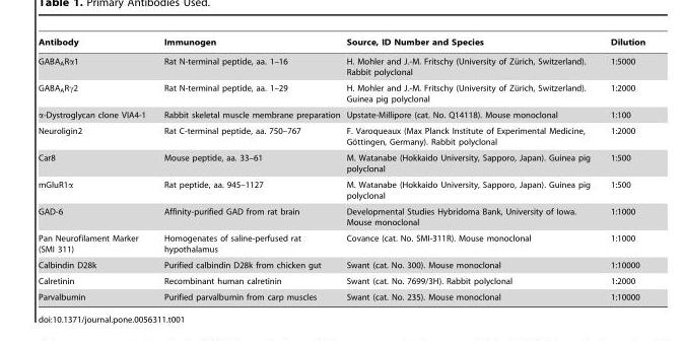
<table><thead><tr><td>Antibody</td><td>Immunogen</td><td>Source, ID Number and Species</td><td>Dilution</td></tr></thead><tbody><tr><td>GABA<sub>A</sub>Rα1</td><td>Rat N-terminal peptide, aa. 1–16</td><td>H. Mohler and J.-M. Fritschy (University of Zu¨rich, Switzerland). Rabbit polyclonal</td><td>1:5000</td></tr><tr><td>GABA<sub>A</sub>Rγ2</td><td>Rat N-terminal peptide, aa. 1–29</td><td>H. Mohler and J.-M. Fritschy (University of Zu¨rich, Switzerland). Guinea pig polyclonal</td><td>1:2000</td></tr><tr><td>α-Dystroglycan clone VIA4-1</td><td>Rabbit skeletal muscle membrane preparation</td><td>Upstate-Millipore (cat. No. Q14118). Mouse monoclonal</td><td>1:100</td></tr><tr><td>Neuroligin2</td><td>Rat C-terminal peptide, aa. 750–767</td><td>F. Varoqueaux (Max Planck Institute of Experimental Medicine, Go¨ttingen, Germany). Rabbit polyclonal</td><td>1:2000</td></tr><tr><td>Car8</td><td>Mouse peptide, aa. 33–61</td><td>M. Watanabe (Hokkaido University, Sapporo, Japan). Guinea pig polyclonal</td><td>1:500</td></tr><tr><td>mGluR1α</td><td>Rat peptide, aa. 945–1127</td><td>M. Watanabe (Hokkaido University, Sapporo, Japan). Guinea pig polyclonal</td><td>1:500</td></tr><tr><td>GAD-6</td><td>Affinity-purified GAD from rat brain</td><td>Developmental Studies Hybridoma Bank, University of Iowa. Mouse monoclonal</td><td>1:1000</td></tr><tr><td>Pan Neurofilament Marker (SMI 311)</td><td>Homogenates of saline-perfused rat hypothalamus</td><td>Covance (cat. No. SMI-311R). Mouse monoclonal</td><td>1:1000</td></tr><tr><td>Calbindin D28k</td><td>Purified calbindin D28k from chicken gut</td><td>Swant (cat. No. 300). Mouse monoclonal</td><td>1:10000</td></tr><tr><td>Calretinin</td><td>Recombinant human calretinin</td><td>Swant (cat. No. 7699/3H). Rabbit polyclonal</td><td>1:2000</td></tr><tr><td>Parvalbumin</td><td>Purified parvalbumin from carp muscles</td><td>Swant (cat. No. 235). Mouse monoclonal</td><td>1:10000</td></tr></tbody></table>